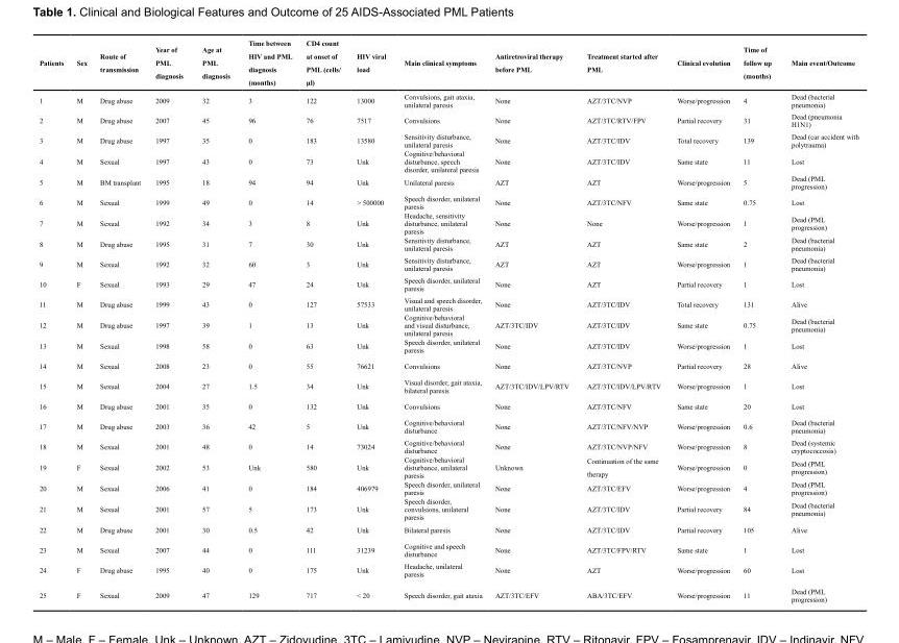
<table><thead><tr><td>Patients</td><td>Sex</td><td>Route of transmission</td><td>Year of PML diagnosis</td><td>Age at PML diagnosis</td><td>Time between HIV and PML diagnosis (months)</td><td>CD4 count at onset of PML (cells/ µl)</td><td>HIV viral load</td><td>Main clinical symptoms</td><td>Antiretroviral therapy before PML</td><td>Treatment started after PML</td><td>Clinical evolution</td><td>Time of follow up (months)</td><td>Main event/Outcome</td></tr></thead><tbody><tr><td>1</td><td>M</td><td>Drug abuse</td><td>2009</td><td>32</td><td>3</td><td>122</td><td>13000</td><td>Convulsions, gait ataxia, unilateral paresis</td><td>None</td><td>AZT/3TC/NVP</td><td>Worse/progression</td><td>4</td><td>Dead (bacterial pneumonia)</td></tr><tr><td>2</td><td>M</td><td>Drug abuse</td><td>2007</td><td>45</td><td>96</td><td>76</td><td>7517</td><td>Convulsions</td><td>None</td><td>AZT/3TC/RTV/FPV</td><td>Partial recovery</td><td>31</td><td>Dead (pneumonia H1N1)</td></tr><tr><td>3</td><td>M</td><td>Drug abuse</td><td>1997</td><td>35</td><td>0</td><td>183</td><td>13580</td><td>Sensitivity disturbance, unilateral paresis</td><td>None</td><td>AZT/3TC/IDV</td><td>Total recovery</td><td>139</td><td>Dead (car accident with polytrauma)</td></tr><tr><td>4</td><td>M</td><td>Sexual</td><td>1997</td><td>43</td><td>0</td><td>73</td><td>Unk</td><td>Cognitive/behavioral disturbance, speech disorder, unilateral paresis</td><td>None</td><td>AZT/3TC/IDV</td><td>Same state</td><td>11</td><td>Lost</td></tr><tr><td>5</td><td>M</td><td>BM transplant</td><td>1995</td><td>18</td><td>94</td><td>94</td><td>Unk</td><td>Unilateral paresis</td><td>AZT</td><td>AZT</td><td>Worse/progression</td><td>5</td><td>Dead (PML progression)</td></tr><tr><td>6</td><td>M</td><td>Sexual</td><td>1999</td><td>49</td><td>0</td><td>14</td><td>&gt; 500000</td><td>Speech disorder, unilateral paresis</td><td>None</td><td>AZT/3TC/NFV</td><td>Same state</td><td>0.75</td><td>Lost</td></tr><tr><td>7</td><td>M</td><td>Sexual</td><td>1992</td><td>34</td><td>3</td><td>8</td><td>Unk</td><td>Headache, sensitivity disturbance, unilateral paresis</td><td>None</td><td>None</td><td>Worse/progression</td><td>1</td><td>Dead (PML progression)</td></tr><tr><td>8</td><td>M</td><td>Drug abuse</td><td>1995</td><td>31</td><td>7</td><td>30</td><td>Unk</td><td>Sensitivity disturbance, unilateral paresis</td><td>AZT</td><td>AZT</td><td>Same state</td><td>2</td><td>Dead (bacterial pneumonia)</td></tr><tr><td>9</td><td>M</td><td>Sexual</td><td>1992</td><td>32</td><td>60</td><td>3</td><td>Unk</td><td>Sensitivity disturbance, unilateral paresis</td><td>AZT</td><td>AZT</td><td>Worse/progression</td><td>1</td><td>Dead (bacterial pneumonia)</td></tr><tr><td>10</td><td>F</td><td>Sexual</td><td>1993</td><td>29</td><td>47</td><td>24</td><td>Unk</td><td>Speech disorder, unilateral paresis</td><td>None</td><td>AZT</td><td>Partial recovery</td><td>1</td><td>Lost</td></tr><tr><td>11</td><td>M</td><td>Drug abuse</td><td>1999</td><td>43</td><td>0</td><td>127</td><td>57533</td><td>Visual and speech disorder, unilateral paresis</td><td>None</td><td>AZT/3TC/IDV</td><td>Total recovery</td><td>131</td><td>Alive</td></tr><tr><td>12</td><td>M</td><td>Drug abuse</td><td>1997</td><td>39</td><td>1</td><td>13</td><td>Unk</td><td>Cognitive/behavioral and visual disturbance, unilateral paresis</td><td>AZT/3TC/IDV</td><td>AZT/3TC/IDV</td><td>Same state</td><td>0.75</td><td>Dead (bacterial pneumonia)</td></tr><tr><td>13</td><td>M</td><td>Sexual</td><td>1998</td><td>58</td><td>0</td><td>63</td><td>Unk</td><td>Speech disorder, unilateral paresis</td><td>None</td><td>AZT/3TC/IDV</td><td>Worse/progression</td><td>1</td><td>Lost</td></tr><tr><td>14</td><td>M</td><td>Sexual</td><td>2008</td><td>23</td><td>0</td><td>55</td><td>76621</td><td>Convulsions</td><td>None</td><td>AZT/3TC/NVP</td><td>Partial recovery</td><td>28</td><td>Alive</td></tr><tr><td>15</td><td>M</td><td>Sexual</td><td>2004</td><td>27</td><td>1.5</td><td>34</td><td>Unk</td><td>Visual disorder, gait ataxia, bilateral paresis</td><td>AZT/3TC/IDV/LPV/RTV</td><td>AZT/3TC/IDV/LPV/RTV</td><td>Worse/progression</td><td>1</td><td>Lost</td></tr><tr><td>16</td><td>M</td><td>Drug abuse</td><td>2001</td><td>35</td><td>0</td><td>132</td><td>Unk</td><td>Convulsions</td><td>None</td><td>AZT/3TC/NFV</td><td>Same state</td><td>20</td><td>Lost</td></tr><tr><td>17</td><td>M</td><td>Drug abuse</td><td>2003</td><td>36</td><td>42</td><td>5</td><td>Unk</td><td>Cognitive/behavioral disturbance</td><td>None</td><td>AZT/3TC/NFV/NVP</td><td>Worse/progression</td><td>0.6</td><td>Dead (bacterial pneumonia)</td></tr><tr><td>18</td><td>M</td><td>Sexual</td><td>2001</td><td>48</td><td>0</td><td>14</td><td>73024</td><td>Cognitive/behavioral disturbance</td><td>None</td><td>AZT/3TC/NVP/NFV</td><td>Worse/progression</td><td>8</td><td>Dead (systemic cryptococcosis)</td></tr><tr><td>19</td><td>F</td><td>Sexual</td><td>2002</td><td>53</td><td>Unk</td><td>580</td><td>Unk</td><td>Cognitive/behavioral disturbance, unilateral paresis</td><td>Unknown</td><td>Continuation of the same therapy</td><td>Worse/progression</td><td>0</td><td>Dead (PML progression)</td></tr><tr><td>20</td><td>M</td><td>Sexual</td><td>2006</td><td>41</td><td>0</td><td>184</td><td>406979</td><td>Speech disorder, unilateral paresis</td><td>None</td><td>AZT/3TC/EFV</td><td>Worse/progression</td><td>4</td><td>Dead (PML progression)</td></tr><tr><td>21</td><td>M</td><td>Sexual</td><td>2001</td><td>57</td><td>5</td><td>173</td><td>Unk</td><td>Speech disorder, convulsions, unilateral paresis</td><td>None</td><td>AZT/3TC/IDV</td><td>Partial recovery</td><td>84</td><td>Dead (bacterial pneumonia)</td></tr><tr><td>22</td><td>M</td><td>Drug abuse</td><td>2001</td><td>30</td><td>0.5</td><td>42</td><td>Unk</td><td>Bilateral paresis</td><td>None</td><td>AZT/3TC/IDV</td><td>Partial recovery</td><td>105</td><td>Alive</td></tr><tr><td>23</td><td>M</td><td>Sexual</td><td>2007</td><td>44</td><td>0</td><td>111</td><td>31239</td><td>Cognitive and speech disturbance</td><td>None</td><td>AZT/3TC/FPV/RTV</td><td>Same state</td><td>1</td><td>Lost</td></tr><tr><td>24</td><td>F</td><td>Drug abuse</td><td>1995</td><td>40</td><td>0</td><td>175</td><td>Unk</td><td>Headache, unilateral paresis</td><td>None</td><td>AZT</td><td>Worse/progression</td><td>60</td><td>Lost</td></tr><tr><td>25</td><td>F</td><td>Sexual</td><td>2009</td><td>47</td><td>129</td><td>717</td><td>&lt; 20</td><td>Speech disorder, gait ataxia</td><td>AZT/3TC/EFV</td><td>ABA/3TC/EFV</td><td>Worse/progression</td><td>11</td><td>Dead (PML progression)</td></tr></tbody></table>